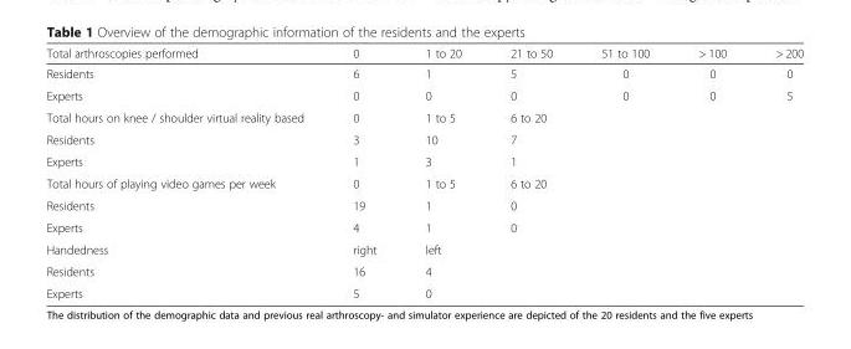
<table><thead><tr><td>Total arthroscopies performed</td><td>0</td><td>1 to 20</td><td>21 to 50</td><td>51 to 100</td><td>&gt; 100</td><td>&gt; 200</td></tr></thead><tbody><tr><td>Residents</td><td>6</td><td>1</td><td>5</td><td>0</td><td>0</td><td>0</td></tr><tr><td>Experts</td><td>0</td><td>0</td><td>0</td><td>0</td><td>0</td><td>5</td></tr><tr><td>Total hours on knee / shoulder virtual reality based</td><td>0</td><td>1 to 5</td><td>6 to 20</td><td></td><td></td><td></td></tr><tr><td>Residents</td><td>3</td><td>10</td><td>7</td><td></td><td></td><td></td></tr><tr><td>Experts</td><td>1</td><td>3</td><td>1</td><td></td><td></td><td></td></tr><tr><td>Total hours of playing video games per week</td><td>0</td><td>1 to 5</td><td>6 to 20</td><td></td><td></td><td></td></tr><tr><td>Residents</td><td>19</td><td>1</td><td>0</td><td></td><td></td><td></td></tr><tr><td>Experts</td><td>4</td><td>1</td><td>0</td><td></td><td></td><td></td></tr><tr><td>Handedness</td><td>right</td><td>left</td><td></td><td></td><td></td><td></td></tr><tr><td>Residents</td><td>16</td><td>4</td><td></td><td></td><td></td><td></td></tr><tr><td>Experts</td><td>5</td><td>0</td><td></td><td></td><td></td><td></td></tr></tbody></table>